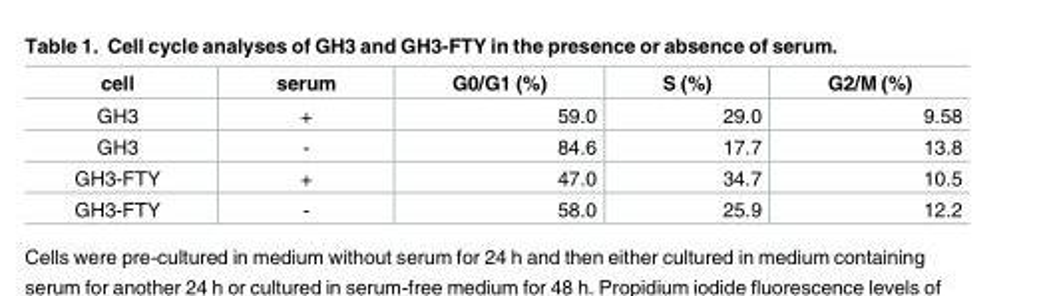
<table><thead><tr><td>cell</td><td>serum</td><td>G0/G1 (%)</td><td>S (%)</td><td>G2/M (%)</td></tr></thead><tbody><tr><td>GH3</td><td>+</td><td>59.0</td><td>29.0</td><td>9.58</td></tr><tr><td>GH3</td><td>-</td><td>84.6</td><td>17.7</td><td>13.8</td></tr><tr><td>GH3-FTY</td><td>+</td><td>47.0</td><td>34.7</td><td>10.5</td></tr><tr><td>GH3-FTY</td><td>-</td><td>58.0</td><td>25.9</td><td>12.2</td></tr></tbody></table>